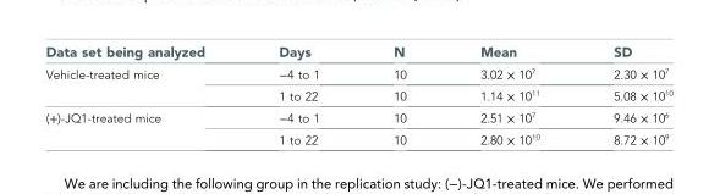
<table><thead><tr><td>Data set being analyzed</td><td>Days</td><td>N</td><td>Mean</td><td>SD</td></tr></thead><tbody><tr><td rowspan="2">Vehicle-treated mice</td><td>−4 to 1</td><td>10</td><td>3.02 × 10<sup>7</sup></td><td>2.30 × 10<sup>7</sup></td></tr><tr><td>1 to 22</td><td>10</td><td>1.14 × 10<sup>11</sup></td><td>5.08 × 10<sup>10</sup></td></tr><tr><td rowspan="2">(+)-JQ1-treated mice</td><td>−4 to 1</td><td>10</td><td>2.51 × 10<sup>7</sup></td><td>9.46 × 10<sup>6</sup></td></tr><tr><td>1 to 22</td><td>10</td><td>2.80 × 10<sup>10</sup></td><td>8.72 × 10<sup>9</sup></td></tr></tbody></table>